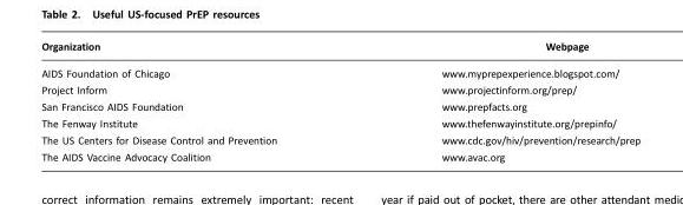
<table><thead><tr><td>Organization</td><td>Webpage</td></tr></thead><tbody><tr><td>AIDS Foundation of Chicago</td><td>www.myprepexperience.blogspot.com/</td></tr><tr><td>Project Inform</td><td>www.projectinform.org/prep/</td></tr><tr><td>San Francisco AIDS Foundation</td><td>www.prepfacts.org</td></tr><tr><td>The Fenway Institute</td><td>www.thefenwayinstitute.org/prepinfo/</td></tr><tr><td>The US Centers for Disease Control and Prevention</td><td>www.cdc.gov/hiv/prevention/research/prep</td></tr><tr><td>The AIDS Vaccine Advocacy Coalition</td><td>www.avac.org</td></tr></tbody></table>